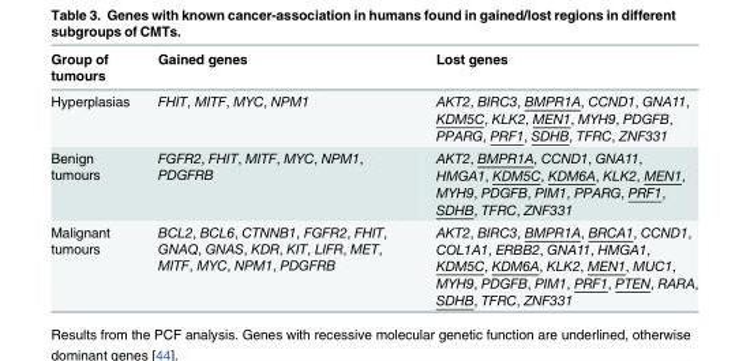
<table><thead><tr><td>Group of tumours</td><td>Gained genes</td><td>Lost genes</td></tr></thead><tbody><tr><td>Hyperplasias</td><td>FHIT, MITF, MYC, NPM1</td><td>AKT2, BIRC3, BMPR1A, CCND1, GNA11, KDM5C, KLK2, MEN1, MYH9, PDGFB, PPARG, PRF1, SDHB, TFRC, ZNF331</td></tr><tr><td>Benign tumours</td><td>FGFR2, FHIT, MITF, MYC, NPM1, PDGFRB</td><td>AKT2, BMPR1A, CCND1, GNA11, HMGA1, KDM5C, KDM6A, KLK2, MEN1, MYH9, PDGFB, PIM1, PPARG, PRF1, SDHB, TFRC, ZNF331</td></tr><tr><td>Malignant tumours</td><td>BCL2, BCL6, CTNNB1, FGFR2, FHIT, GNAQ, GNAS, KDR, KIT, LIFR, MET, MITF, MYC, NPM1, PDGFRB</td><td>AKT2, BIRC3, BMPR1A, BRCA1, CCND1, COL1A1, ERBB2, GNA11, HMGA1, KDM5C, KDM6A, KLK2, MEN1, MUC1, MYH9, PDGFB, PIM1, PRF1, PTEN, RARA, SDHB, TFRC, ZNF331</td></tr></tbody></table>